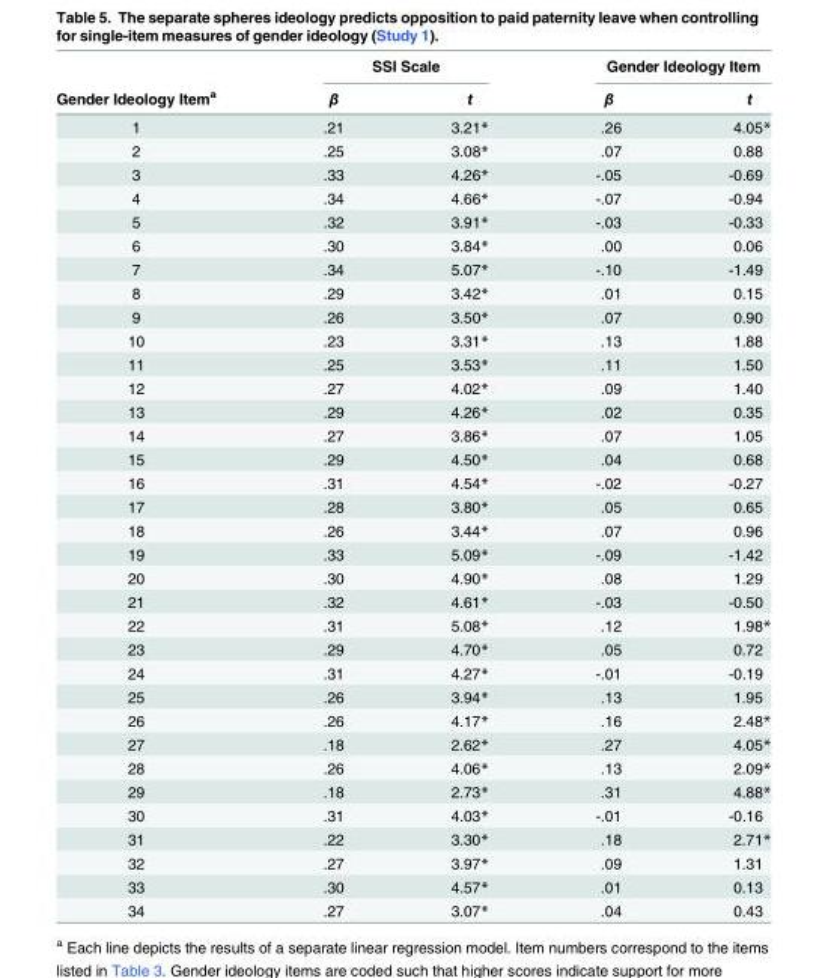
<table><thead><tr><td rowspan="2">Gender Ideology Item<sup>a</sup></td><td colspan="2">SSI Scale</td><td colspan="2">Gender Ideology Item</td></tr><tr><td>β</td><td>t</td><td>β</td><td>t</td></tr></thead><tbody><tr><td>1</td><td>.21</td><td>3.21*</td><td>.26</td><td>4.05*</td></tr><tr><td>2</td><td>.25</td><td>3.08*</td><td>.07</td><td>0.88</td></tr><tr><td>3</td><td>.33</td><td>4.26*</td><td>-.05</td><td>-0.69</td></tr><tr><td>4</td><td>.34</td><td>4.66*</td><td>-.07</td><td>-0.94</td></tr><tr><td>5</td><td>.32</td><td>3.91*</td><td>-.03</td><td>-0.33</td></tr><tr><td>6</td><td>.30</td><td>3.84*</td><td>.00</td><td>0.06</td></tr><tr><td>7</td><td>.34</td><td>5.07*</td><td>-.10</td><td>-1.49</td></tr><tr><td>8</td><td>.29</td><td>3.42*</td><td>.01</td><td>0.15</td></tr><tr><td>9</td><td>.26</td><td>3.50*</td><td>.07</td><td>0.90</td></tr><tr><td>10</td><td>.23</td><td>3.31*</td><td>.13</td><td>1.88</td></tr><tr><td>11</td><td>.25</td><td>3.53*</td><td>.11</td><td>1.50</td></tr><tr><td>12</td><td>.27</td><td>4.02*</td><td>.09</td><td>1.40</td></tr><tr><td>13</td><td>.29</td><td>4.26*</td><td>.02</td><td>0.35</td></tr><tr><td>14</td><td>.27</td><td>3.86*</td><td>.07</td><td>1.05</td></tr><tr><td>15</td><td>.29</td><td>4.50*</td><td>.04</td><td>0.68</td></tr><tr><td>16</td><td>.31</td><td>4.54*</td><td>-.02</td><td>-0.27</td></tr><tr><td>17</td><td>.28</td><td>3.80*</td><td>.05</td><td>0.65</td></tr><tr><td>18</td><td>.26</td><td>3.44*</td><td>.07</td><td>0.96</td></tr><tr><td>19</td><td>.33</td><td>5.09*</td><td>-.09</td><td>-1.42</td></tr><tr><td>20</td><td>.30</td><td>4.90*</td><td>.08</td><td>1.29</td></tr><tr><td>21</td><td>.32</td><td>4.61*</td><td>-.03</td><td>-0.50</td></tr><tr><td>22</td><td>.31</td><td>5.08*</td><td>.12</td><td>1.98*</td></tr><tr><td>23</td><td>.29</td><td>4.70*</td><td>.05</td><td>0.72</td></tr><tr><td>24</td><td>.31</td><td>4.27*</td><td>-.01</td><td>-0.19</td></tr><tr><td>25</td><td>.26</td><td>3.94*</td><td>.13</td><td>1.95</td></tr><tr><td>26</td><td>.26</td><td>4.17*</td><td>.16</td><td>2.48*</td></tr><tr><td>27</td><td>.18</td><td>2.62*</td><td>.27</td><td>4.05*</td></tr><tr><td>28</td><td>.26</td><td>4.06*</td><td>.13</td><td>2.09*</td></tr><tr><td>29</td><td>.18</td><td>2.73*</td><td>.31</td><td>4.88*</td></tr><tr><td>30</td><td>.31</td><td>4.03*</td><td>-.01</td><td>-0.16</td></tr><tr><td>31</td><td>.22</td><td>3.30*</td><td>.18</td><td>2.71*</td></tr><tr><td>32</td><td>.27</td><td>3.97*</td><td>.09</td><td>1.31</td></tr><tr><td>33</td><td>.30</td><td>4.57*</td><td>.01</td><td>0.13</td></tr><tr><td>34</td><td>.27</td><td>3.07*</td><td>.04</td><td>0.43</td></tr></tbody></table>